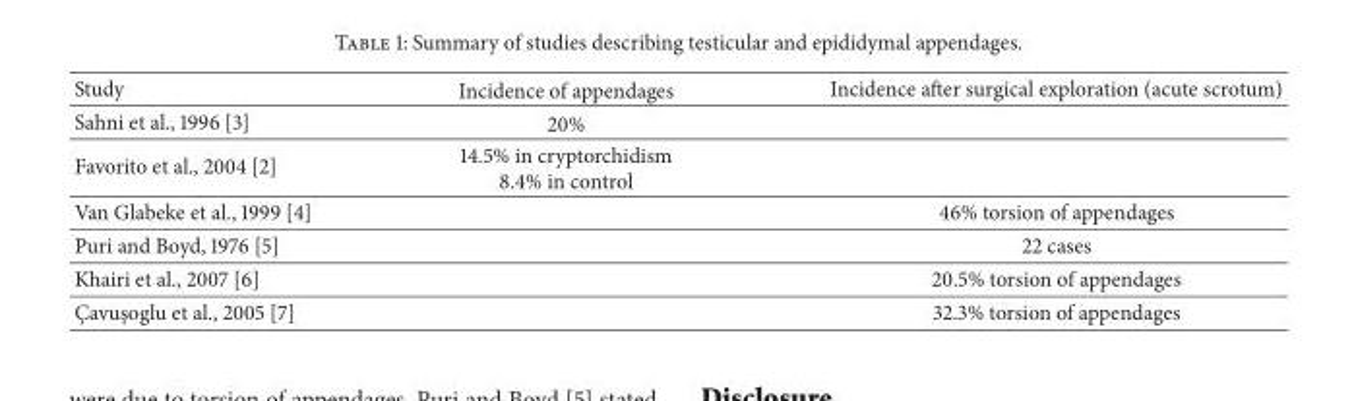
<table><thead><tr><td>Study</td><td>Incidence of appendages</td><td>Incidence after surgical exploration (acute scrotum)</td></tr></thead><tbody><tr><td>Sahni et al., 1996 [3]</td><td>20%</td><td></td></tr><tr><td>Favorito et al., 2004 [2]</td><td>14.5% in cryptorchidism 8.4% in control</td><td></td></tr><tr><td>Van Glabeke et al., 1999 [4]</td><td></td><td>46% torsion of appendages</td></tr><tr><td>Puri and Boyd, 1976 [5]</td><td></td><td>22 cases</td></tr><tr><td>Khairi et al., 2007 [6]</td><td></td><td>20.5% torsion of appendages</td></tr><tr><td>C¸avus¸oglu et al., 2005 [7]</td><td></td><td>32.3% torsion of appendages</td></tr></tbody></table>